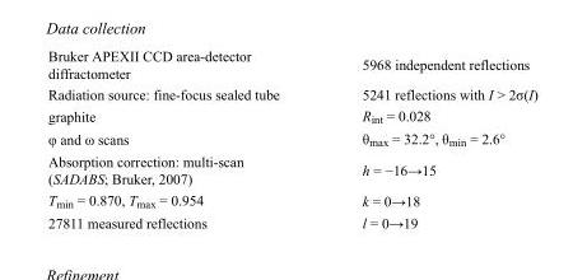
<table><tbody><tr><td>Bruker APEXII CCD area-detector diffractometer</td><td>5968 independent reflections</td></tr><tr><td>Radiation source: fine-focus sealed tube</td><td>5241 reflections with I &gt; 2σ(I)</td></tr><tr><td>graphite</td><td>R<sub>int</sub> = 0.028</td></tr><tr><td>φ and ω scans</td><td>θ<sub>max</sub> = 32.2°, θ<sub>min</sub> = 2.6°</td></tr><tr><td>Absorption correction: multi-scan (SADABS; Bruker, 2007)</td><td>h = −16→15</td></tr><tr><td>T<sub>min</sub> = 0.870, T<sub>max</sub> = 0.954</td><td>k = 0→18</td></tr><tr><td>27811 measured reflections</td><td>l = 0→19</td></tr></tbody></table>